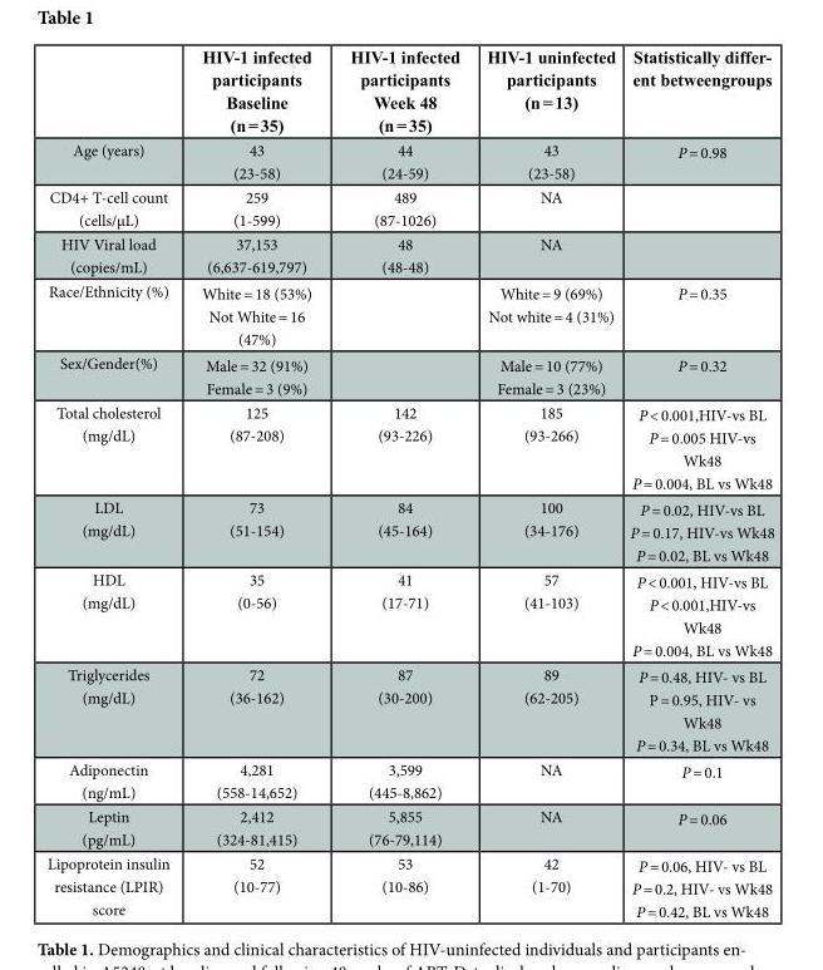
<table><thead><tr><td></td><td>HIV-1 infected participants Baseline (n = 35)</td><td>HIV-1 infected participants Week 48 (n = 35)</td><td>HIV-1 uninfected participants (n = 13)</td><td>Statistically differ- ent betweengroups</td></tr></thead><tbody><tr><td>Age (years)</td><td>43 (23-58)</td><td>44 (24-59)</td><td>43 (23-58)</td><td>P = 0.98</td></tr><tr><td>CD4+ T-cell count (cells/μL)</td><td>259 (1-599)</td><td>489 (87-1026)</td><td>NA</td><td></td></tr><tr><td>HIV Viral load (copies/mL)</td><td>37,153 (6,637-619,797)</td><td>48 (48-48)</td><td>NA</td><td></td></tr><tr><td>Race/Ethnicity (%)</td><td>White = 18 (53%) Not White = 16 (47%)</td><td></td><td>White = 9 (69%) Not white = 4 (31%)</td><td>P = 0.35</td></tr><tr><td>Sex/Gender(%)</td><td>Male = 32 (91%) Female = 3 (9%)</td><td></td><td>Male = 10 (77%) Female = 3 (23%)</td><td>P = 0.32</td></tr><tr><td>Total cholesterol (mg/dL)</td><td>125 (87-208)</td><td>142 (93-226)</td><td>185 (93-266)</td><td>P &lt; 0.001,HIV-vs BL P = 0.005 HIV-vs Wk48 P = 0.004, BL vs Wk48</td></tr><tr><td>LDL (mg/dL)</td><td>73 (51-154)</td><td>84 (45-164)</td><td>100 (34-176)</td><td>P = 0.02, HIV-vs BL P = 0.17, HIV-vs Wk48 P = 0.02, BL vs Wk48</td></tr><tr><td>HDL (mg/dL)</td><td>35 (0-56)</td><td>41 (17-71)</td><td>57 (41-103)</td><td>P &lt; 0.001, HIV-vs BL P &lt; 0.001,HIV-vs Wk48 P = 0.004, BL vs Wk48</td></tr><tr><td>Triglycerides (mg/dL)</td><td>72 (36-162)</td><td>87 (30-200)</td><td>89 (62-205)</td><td>P = 0.48, HIV- vs BL P = 0.95, HIV- vs Wk48 P = 0.34, BL vs Wk48</td></tr><tr><td>Adiponectin (ng/mL)</td><td>4,281 (558-14,652)</td><td>3,599 (445-8,862)</td><td>NA</td><td>P = 0.1</td></tr><tr><td>Leptin (pg/mL)</td><td>2,412 (324-81,415)</td><td>5,855 (76-79,114)</td><td>NA</td><td>P = 0.06</td></tr><tr><td>Lipoprotein insulin resistance (LPIR) score</td><td>52 (10-77)</td><td>53 (10-86)</td><td>42 (1-70)</td><td>P = 0.06, HIV- vs BL P = 0.2, HIV- vs Wk48 P = 0.42, BL vs Wk48</td></tr></tbody></table>